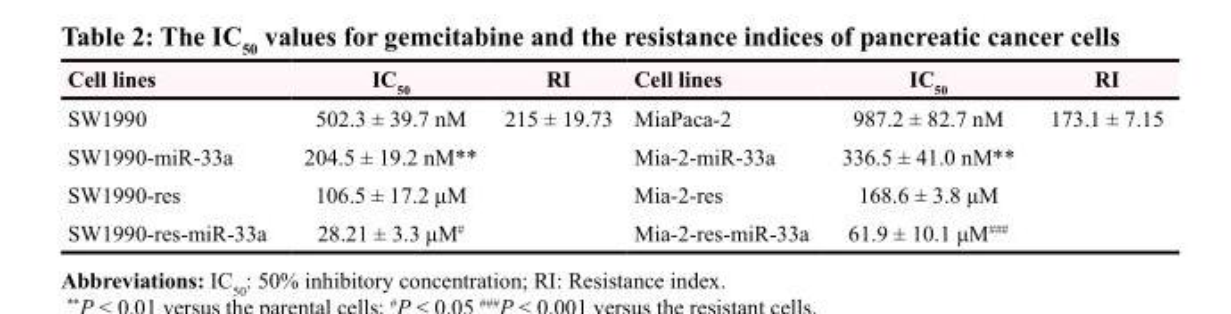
<table><thead><tr><td>Cell lines</td><td>IC<sub>50</sub></td><td>RI</td><td>Cell lines</td><td>IC<sub>50</sub></td><td>RI</td></tr></thead><tbody><tr><td>SW1990</td><td>502.3 ± 39.7 nM</td><td>215 ± 19.73</td><td>MiaPaca-2</td><td>987.2 ± 82.7 nM</td><td>173.1 ± 7.15</td></tr><tr><td>SW1990-miR-33a</td><td>204.5 ± 19.2 nM**</td><td></td><td>Mia-2-miR-33a</td><td>336.5 ± 41.0 nM**</td><td></td></tr><tr><td>SW1990-res</td><td>106.5 ± 17.2 μM</td><td></td><td>Mia-2-res</td><td>168.6 ± 3.8 μM</td><td></td></tr><tr><td>SW1990-res-miR-33a</td><td>28.21 ± 3.3 μM<sup>#</sup></td><td></td><td>Mia-2-res-miR-33a</td><td>61.9 ± 10.1 μM<sup>###</sup></td><td></td></tr></tbody></table>